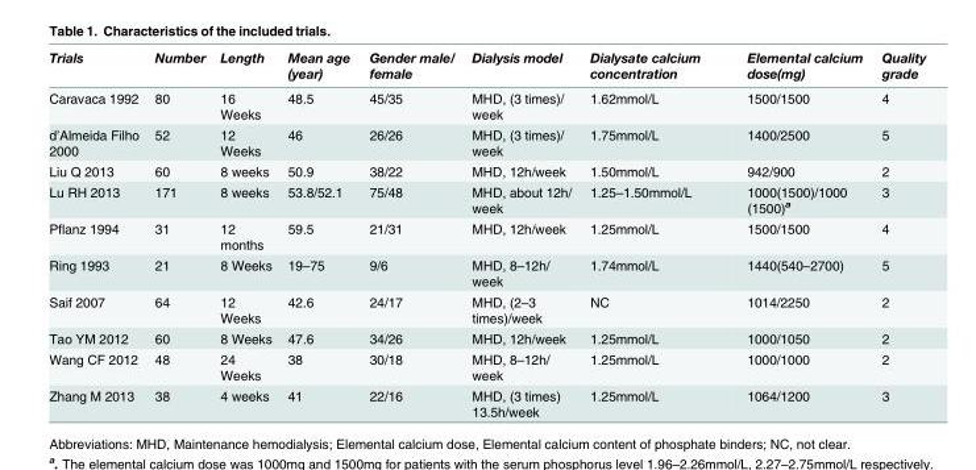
<table><thead><tr><td>Trials</td><td>Number</td><td>Length</td><td>Mean age (year)</td><td>Gender male/ female</td><td>Dialysis model</td><td>Dialysate calcium concentration</td><td>Elemental calcium dose(mg)</td><td>Quality grade</td></tr></thead><tbody><tr><td>Caravaca 1992</td><td>80</td><td>16 Weeks</td><td>48.5</td><td>45/35</td><td>MHD, (3 times)/ week</td><td>1.62mmol/L</td><td>1500/1500</td><td>4</td></tr><tr><td>d’Almeida Filho 2000</td><td>52</td><td>12 Weeks</td><td>46</td><td>26/26</td><td>MHD, (3 times)/ week</td><td>1.75mmol/L</td><td>1400/2500</td><td>5</td></tr><tr><td>Liu Q 2013</td><td>60</td><td>8 weeks</td><td>50.9</td><td>38/22</td><td>MHD, 12h/week</td><td>1.50mmol/L</td><td>942/900</td><td>2</td></tr><tr><td>Lu RH 2013</td><td>171</td><td>8 weeks</td><td>53.8/52.1</td><td>75/48</td><td>MHD, about 12h/ week</td><td>1.25–1.50mmol/L</td><td>1000(1500)/1000 (1500)<sup>a</sup></td><td>3</td></tr><tr><td>Pflanz 1994</td><td>31</td><td>12 months</td><td>59.5</td><td>21/31</td><td>MHD, 12h/week</td><td>1.25mmol/L</td><td>1500/1500</td><td>4</td></tr><tr><td>Ring 1993</td><td>21</td><td>8 Weeks</td><td>19–75</td><td>9/6</td><td>MHD, 8–12h/ week</td><td>1.74mmol/L</td><td>1440(540–2700)</td><td>5</td></tr><tr><td>Saif 2007</td><td>64</td><td>12 Weeks</td><td>42.6</td><td>24/17</td><td>MHD, (2–3 times)/week</td><td>NC</td><td>1014/2250</td><td>2</td></tr><tr><td>Tao YM 2012</td><td>60</td><td>8 Weeks</td><td>47.6</td><td>34/26</td><td>MHD, 12h/week</td><td>1.25mmol/L</td><td>1000/1050</td><td>2</td></tr><tr><td>Wang CF 2012</td><td>48</td><td>24 Weeks</td><td>38</td><td>30/18</td><td>MHD, 8–12h/ week</td><td>1.25mmol/L</td><td>1000/1000</td><td>2</td></tr><tr><td>Zhang M 2013</td><td>38</td><td>4 weeks</td><td>41</td><td>22/16</td><td>MHD, (3 times) 13.5h/week</td><td>1.25mmol/L</td><td>1064/1200</td><td>3</td></tr></tbody></table>